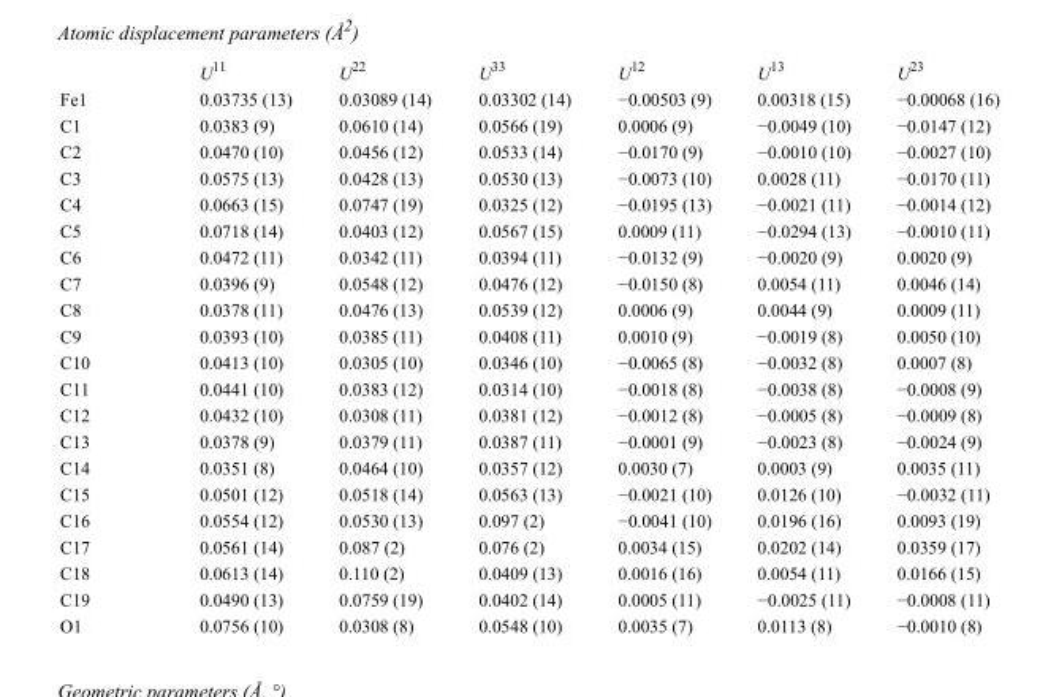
<table><thead><tr><td></td><td>U<sup>11</sup></td><td>U<sup>22</sup></td><td>U<sup>33</sup></td><td>U<sup>12</sup></td><td>U<sup>13</sup></td><td>U<sup>23</sup></td></tr></thead><tbody><tr><td>Fe1</td><td>0.03735 (13)</td><td>0.03089 (14)</td><td>0.03302 (14)</td><td>−0.00503 (9)</td><td>0.00318 (15)</td><td>−0.00068 (16)</td></tr><tr><td>C1</td><td>0.0383 (9)</td><td>0.0610 (14)</td><td>0.0566 (19)</td><td>0.0006 (9)</td><td>−0.0049 (10)</td><td>−0.0147 (12)</td></tr><tr><td>C2</td><td>0.0470 (10)</td><td>0.0456 (12)</td><td>0.0533 (14)</td><td>−0.0170 (9)</td><td>−0.0010 (10)</td><td>−0.0027 (10)</td></tr><tr><td>C3</td><td>0.0575 (13)</td><td>0.0428 (13)</td><td>0.0530 (13)</td><td>−0.0073 (10)</td><td>0.0028 (11)</td><td>−0.0170 (11)</td></tr><tr><td>C4</td><td>0.0663 (15)</td><td>0.0747 (19)</td><td>0.0325 (12)</td><td>−0.0195 (13)</td><td>−0.0021 (11)</td><td>−0.0014 (12)</td></tr><tr><td>C5</td><td>0.0718 (14)</td><td>0.0403 (12)</td><td>0.0567 (15)</td><td>0.0009 (11)</td><td>−0.0294 (13)</td><td>−0.0010 (11)</td></tr><tr><td>C6</td><td>0.0472 (11)</td><td>0.0342 (11)</td><td>0.0394 (11)</td><td>−0.0132 (9)</td><td>−0.0020 (9)</td><td>0.0020 (9)</td></tr><tr><td>C7</td><td>0.0396 (9)</td><td>0.0548 (12)</td><td>0.0476 (12)</td><td>−0.0150 (8)</td><td>0.0054 (11)</td><td>0.0046 (14)</td></tr><tr><td>C8</td><td>0.0378 (11)</td><td>0.0476 (13)</td><td>0.0539 (12)</td><td>0.0006 (9)</td><td>0.0044 (9)</td><td>0.0009 (11)</td></tr><tr><td>C9</td><td>0.0393 (10)</td><td>0.0385 (11)</td><td>0.0408 (11)</td><td>0.0010 (9)</td><td>−0.0019 (8)</td><td>0.0050 (10)</td></tr><tr><td>C10</td><td>0.0413 (10)</td><td>0.0305 (10)</td><td>0.0346 (10)</td><td>−0.0065 (8)</td><td>−0.0032 (8)</td><td>0.0007 (8)</td></tr><tr><td>C11</td><td>0.0441 (10)</td><td>0.0383 (12)</td><td>0.0314 (10)</td><td>−0.0018 (8)</td><td>−0.0038 (8)</td><td>−0.0008 (9)</td></tr><tr><td>C12</td><td>0.0432 (10)</td><td>0.0308 (11)</td><td>0.0381 (12)</td><td>−0.0012 (8)</td><td>−0.0005 (8)</td><td>−0.0009 (8)</td></tr><tr><td>C13</td><td>0.0378 (9)</td><td>0.0379 (11)</td><td>0.0387 (11)</td><td>−0.0001 (9)</td><td>−0.0023 (8)</td><td>−0.0024 (9)</td></tr><tr><td>C14</td><td>0.0351 (8)</td><td>0.0464 (10)</td><td>0.0357 (12)</td><td>0.0030 (7)</td><td>0.0003 (9)</td><td>0.0035 (11)</td></tr><tr><td>C15</td><td>0.0501 (12)</td><td>0.0518 (14)</td><td>0.0563 (13)</td><td>−0.0021 (10)</td><td>0.0126 (10)</td><td>−0.0032 (11)</td></tr><tr><td>C16</td><td>0.0554 (12)</td><td>0.0530 (13)</td><td>0.097 (2)</td><td>−0.0041 (10)</td><td>0.0196 (16)</td><td>0.0093 (19)</td></tr><tr><td>C17</td><td>0.0561 (14)</td><td>0.087 (2)</td><td>0.076 (2)</td><td>0.0034 (15)</td><td>0.0202 (14)</td><td>0.0359 (17)</td></tr><tr><td>C18</td><td>0.0613 (14)</td><td>0.110 (2)</td><td>0.0409 (13)</td><td>0.0016 (16)</td><td>0.0054 (11)</td><td>0.0166 (15)</td></tr><tr><td>C19</td><td>0.0490 (13)</td><td>0.0759 (19)</td><td>0.0402 (14)</td><td>0.0005 (11)</td><td>−0.0025 (11)</td><td>−0.0008 (11)</td></tr><tr><td>O1</td><td>0.0756 (10)</td><td>0.0308 (8)</td><td>0.0548 (10)</td><td>0.0035 (7)</td><td>0.0113 (8)</td><td>−0.0010 (8)</td></tr></tbody></table>